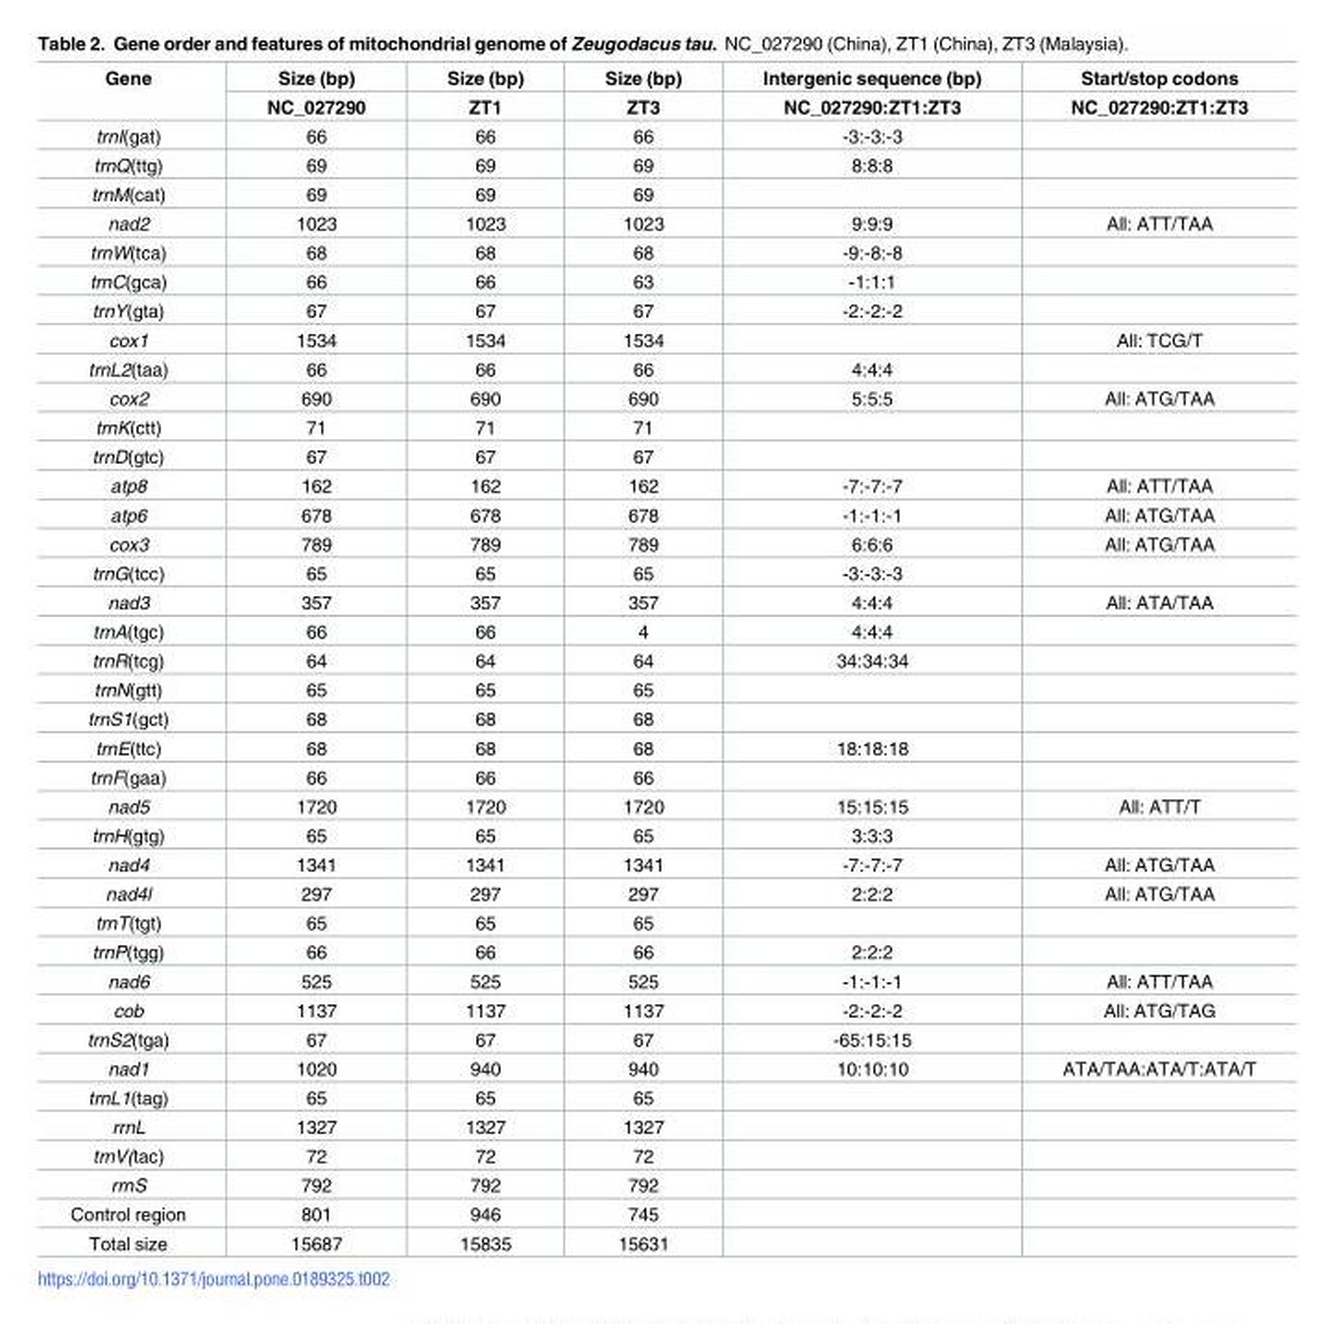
<table><thead><tr><td rowspan="2">Gene</td><td rowspan="2">Size (bp) NC_027290</td><td rowspan="2">Size (bp) ZT1</td><td rowspan="2">Size (bp) ZT3</td><td rowspan="2">Intergenic sequence (bp) NC_027290:ZT1:ZT3</td><td rowspan="2">Start/stop codons NC_027290:ZT1:ZT3</td></tr><tr></tr></thead><tbody><tr><td>trnI(gat)</td><td>66</td><td>66</td><td>66</td><td>-3:-3:-3</td><td></td></tr><tr><td>trnQ(ttg)</td><td>69</td><td>69</td><td>69</td><td>8:8:8</td><td></td></tr><tr><td>trnM(cat)</td><td>69</td><td>69</td><td>69</td><td></td><td></td></tr><tr><td>nad2</td><td>1023</td><td>1023</td><td>1023</td><td>9:9:9</td><td>All: ATT/TAA</td></tr><tr><td>trnW(tca)</td><td>68</td><td>68</td><td>68</td><td>-9:-8:-8</td><td></td></tr><tr><td>trnC(gca)</td><td>66</td><td>66</td><td>63</td><td>-1:1:1</td><td></td></tr><tr><td>trnY(gta)</td><td>67</td><td>67</td><td>67</td><td>-2:-2:-2</td><td></td></tr><tr><td>cox1</td><td>1534</td><td>1534</td><td>1534</td><td></td><td>All: TCG/T</td></tr><tr><td>trnL2(taa)</td><td>66</td><td>66</td><td>66</td><td>4:4:4</td><td></td></tr><tr><td>cox2</td><td>690</td><td>690</td><td>690</td><td>5:5:5</td><td>All: ATG/TAA</td></tr><tr><td>trnK(ctt)</td><td>71</td><td>71</td><td>71</td><td></td><td></td></tr><tr><td>trnD(gtc)</td><td>67</td><td>67</td><td>67</td><td></td><td></td></tr><tr><td>atp8</td><td>162</td><td>162</td><td>162</td><td>-7:-7:-7</td><td>All: ATT/TAA</td></tr><tr><td>atp6</td><td>678</td><td>678</td><td>678</td><td>-1:-1:-1</td><td>All: ATG/TAA</td></tr><tr><td>cox3</td><td>789</td><td>789</td><td>789</td><td>6:6:6</td><td>All: ATG/TAA</td></tr><tr><td>trnG(tcc)</td><td>65</td><td>65</td><td>65</td><td>-3:-3:-3</td><td></td></tr><tr><td>nad3</td><td>357</td><td>357</td><td>357</td><td>4:4:4</td><td>All: ATA/TAA</td></tr><tr><td>trnA(tgc)</td><td>66</td><td>66</td><td>4</td><td>4:4:4</td><td></td></tr><tr><td>trnR(tcg)</td><td>64</td><td>64</td><td>64</td><td>34:34:34</td><td></td></tr><tr><td>trnN(gtt)</td><td>65</td><td>65</td><td>65</td><td></td><td></td></tr><tr><td>trnS1(gct)</td><td>68</td><td>68</td><td>68</td><td></td><td></td></tr><tr><td>trnE(ttc)</td><td>68</td><td>68</td><td>68</td><td>18:18:18</td><td></td></tr><tr><td>trnF(gaa)</td><td>66</td><td>66</td><td>66</td><td></td><td></td></tr><tr><td>nad5</td><td>1720</td><td>1720</td><td>1720</td><td>15:15:15</td><td>All: ATT/T</td></tr><tr><td>trnH(gtg)</td><td>65</td><td>65</td><td>65</td><td>3:3:3</td><td></td></tr><tr><td>nad4</td><td>1341</td><td>1341</td><td>1341</td><td>-7:-7:-7</td><td>All: ATG/TAA</td></tr><tr><td>nad4l</td><td>297</td><td>297</td><td>297</td><td>2:2:2</td><td>All: ATG/TAA</td></tr><tr><td>trnT(tgt)</td><td>65</td><td>65</td><td>65</td><td></td><td></td></tr><tr><td>trnP(tgg)</td><td>66</td><td>66</td><td>66</td><td>2:2:2</td><td></td></tr><tr><td>nad6</td><td>525</td><td>525</td><td>525</td><td>-1:-1:-1</td><td>All: ATT/TAA</td></tr><tr><td>cob</td><td>1137</td><td>1137</td><td>1137</td><td>-2:-2:-2</td><td>All: ATG/TAG</td></tr><tr><td>trnS2(tga)</td><td>67</td><td>67</td><td>67</td><td>-65:15:15</td><td></td></tr><tr><td>nad1</td><td>1020</td><td>940</td><td>940</td><td>10:10:10</td><td>ATA/TAA:ATA/T:ATA/T</td></tr><tr><td>trnL1(tag)</td><td>65</td><td>65</td><td>65</td><td></td><td></td></tr><tr><td>rrnL</td><td>1327</td><td>1327</td><td>1327</td><td></td><td></td></tr><tr><td>trnV(tac)</td><td>72</td><td>72</td><td>72</td><td></td><td></td></tr><tr><td>rrnS</td><td>792</td><td>792</td><td>792</td><td></td><td></td></tr><tr><td>Control region</td><td>801</td><td>946</td><td>745</td><td></td><td></td></tr><tr><td>Total size</td><td>15687</td><td>15835</td><td>15631</td><td></td><td></td></tr></tbody></table>